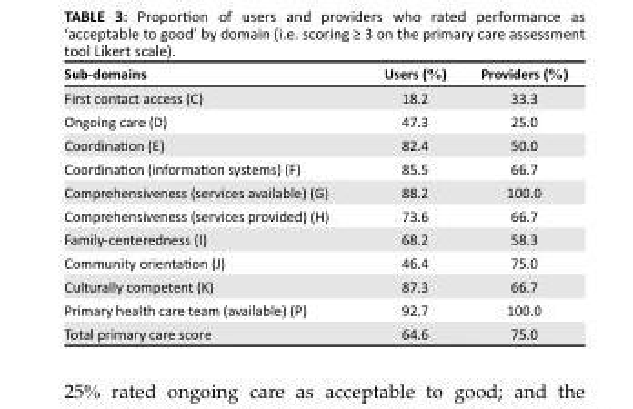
<table><thead><tr><td>Sub-domains</td><td>Users (%)</td><td>Providers (%)</td></tr></thead><tbody><tr><td>First contact access (C)</td><td>18.2</td><td>33.3</td></tr><tr><td>Ongoing care (D)</td><td>47.3</td><td>25.0</td></tr><tr><td>Coordination (E)</td><td>82.4</td><td>50.0</td></tr><tr><td>Coordination (information systems) (F)</td><td>85.5</td><td>66.7</td></tr><tr><td>Comprehensiveness (services available) (G)</td><td>88.2</td><td>100.0</td></tr><tr><td>Comprehensiveness (services provided) (H)</td><td>73.6</td><td>66.7</td></tr><tr><td>Family-centeredness (I)</td><td>68.2</td><td>58.3</td></tr><tr><td>Community orientation (J)</td><td>46.4</td><td>75.0</td></tr><tr><td>Culturally competent (K)</td><td>87.3</td><td>66.7</td></tr><tr><td>Primary health care team (available) (P)</td><td>92.7</td><td>100.0</td></tr><tr><td>Total primary care score</td><td>64.6</td><td>75.0</td></tr></tbody></table>